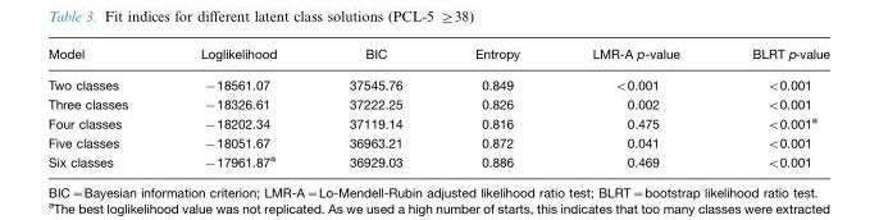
<table><thead><tr><td>Model</td><td>Loglikelihood</td><td>BIC</td><td>Entropy</td><td>LMR-A p-value</td><td>BLRT p-value</td></tr></thead><tbody><tr><td>Two classes</td><td>−18561.07</td><td>37545.76</td><td>0.849</td><td>&lt;0.001</td><td>&lt;0.001</td></tr><tr><td>Three classes</td><td>−18326.61</td><td>37222.25</td><td>0.826</td><td>0.002</td><td>&lt;0.001</td></tr><tr><td>Four classes</td><td>−18202.34</td><td>37119.14</td><td>0.816</td><td>0.475</td><td>&lt;0.001<sup>a</sup></td></tr><tr><td>Five classes</td><td>−18051.67</td><td>36963.21</td><td>0.872</td><td>0.041</td><td>&lt;0.001</td></tr><tr><td>Six classes</td><td>−17961.87<sup>a</sup></td><td>36929.03</td><td>0.886</td><td>0.469</td><td>&lt;0.001</td></tr></tbody></table>